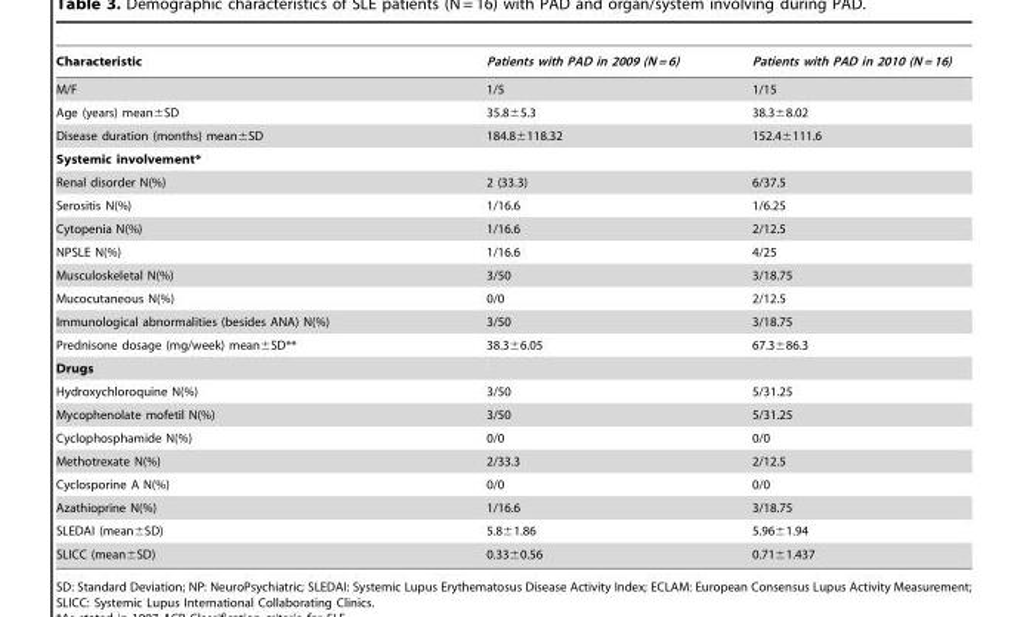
<table><thead><tr><td>Characteristic</td><td>Patients with PAD in 2009 (N = 6)</td><td>Patients with PAD in 2010 (N = 16)</td></tr></thead><tbody><tr><td>M/F</td><td>1/5</td><td>1/15</td></tr><tr><td>Age (years) mean±SD</td><td>35.8±5.3</td><td>38.3±8.02</td></tr><tr><td>Disease duration (months) mean±SD</td><td>184.8±118.32</td><td>152.4±111.6</td></tr><tr><td colspan="3">Systemic involvement*</td></tr><tr><td>Renal disorder N(%)</td><td>2 (33.3)</td><td>6/37.5</td></tr><tr><td>Serositis N(%)</td><td>1/16.6</td><td>1/6.25</td></tr><tr><td>Cytopenia N(%)</td><td>1/16.6</td><td>2/12.5</td></tr><tr><td>NPSLE N(%)</td><td>1/16.6</td><td>4/25</td></tr><tr><td>Musculoskeletal N(%)</td><td>3/50</td><td>3/18.75</td></tr><tr><td>Mucocutaneous N(%)</td><td>0/0</td><td>2/12.5</td></tr><tr><td>Immunological abnormalities (besides ANA) N(%)</td><td>3/50</td><td>3/18.75</td></tr><tr><td>Prednisone dosage (mg/week) mean±SD**</td><td>38.3±6.05</td><td>67.3±86.3</td></tr><tr><td colspan="3">Drugs</td></tr><tr><td>Hydroxychloroquine N(%)</td><td>3/50</td><td>5/31.25</td></tr><tr><td>Mycophenolate mofetil N(%)</td><td>3/50</td><td>5/31.25</td></tr><tr><td>Cyclophosphamide N(%)</td><td>0/0</td><td>0/0</td></tr><tr><td>Methotrexate N(%)</td><td>2/33.3</td><td>2/12.5</td></tr><tr><td>Cyclosporine A N(%)</td><td>0/0</td><td>0/0</td></tr><tr><td>Azathioprine N(%)</td><td>1/16.6</td><td>3/18.75</td></tr><tr><td>SLEDAI (mean±SD)</td><td>5.8±1.86</td><td>5.96±1.94</td></tr><tr><td>SLICC (mean±SD)</td><td>0.33±0.56</td><td>0.71±1.437</td></tr></tbody></table>